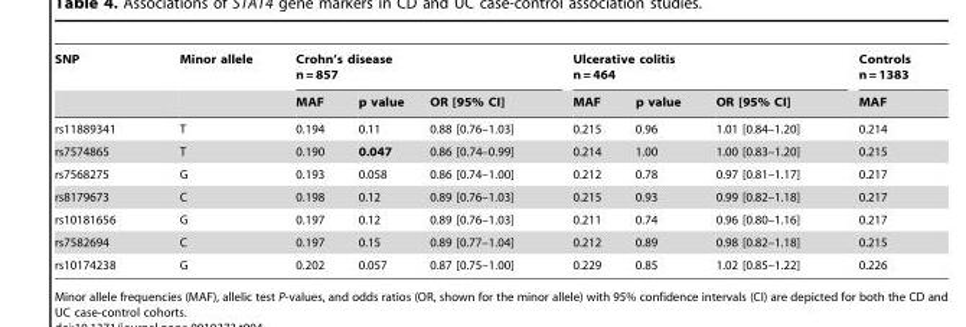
<table><thead><tr><td rowspan="2">SNP</td><td rowspan="2">Minor allele</td><td colspan="3">Crohn’s disease n = 857</td><td colspan="3">Ulcerative colitis n = 464</td><td rowspan="2">Controls n = 1383 MAF</td></tr><tr><td>MAF</td><td>p value</td><td>OR [95% CI]</td><td>MAF</td><td>p value</td><td>OR [95% CI]</td></tr></thead><tbody><tr><td>rs11889341</td><td>T</td><td>0.194</td><td>0.11</td><td>0.88 [0.76–1.03]</td><td>0.215</td><td>0.96</td><td>1.01 [0.84–1.20]</td><td>0.214</td></tr><tr><td>rs7574865</td><td>T</td><td>0.190</td><td>0.047</td><td>0.86 [0.74–0.99]</td><td>0.214</td><td>1.00</td><td>1.00 [0.83–1.20]</td><td>0.215</td></tr><tr><td>rs7568275</td><td>G</td><td>0.193</td><td>0.058</td><td>0.86 [0.74–1.00]</td><td>0.212</td><td>0.78</td><td>0.97 [0.81–1.17]</td><td>0.217</td></tr><tr><td>rs8179673</td><td>C</td><td>0.198</td><td>0.12</td><td>0.89 [0.76–1.03]</td><td>0.215</td><td>0.93</td><td>0.99 [0.82–1.18]</td><td>0.217</td></tr><tr><td>rs10181656</td><td>G</td><td>0.197</td><td>0.12</td><td>0.89 [0.76–1.03]</td><td>0.211</td><td>0.74</td><td>0.96 [0.80–1.16]</td><td>0.217</td></tr><tr><td>rs7582694</td><td>C</td><td>0.197</td><td>0.15</td><td>0.89 [0.77–1.04]</td><td>0.212</td><td>0.89</td><td>0.98 [0.82–1.18]</td><td>0.215</td></tr><tr><td>rs10174238</td><td>G</td><td>0.202</td><td>0.057</td><td>0.87 [0.75–1.00]</td><td>0.229</td><td>0.85</td><td>1.02 [0.85–1.22]</td><td>0.226</td></tr></tbody></table>